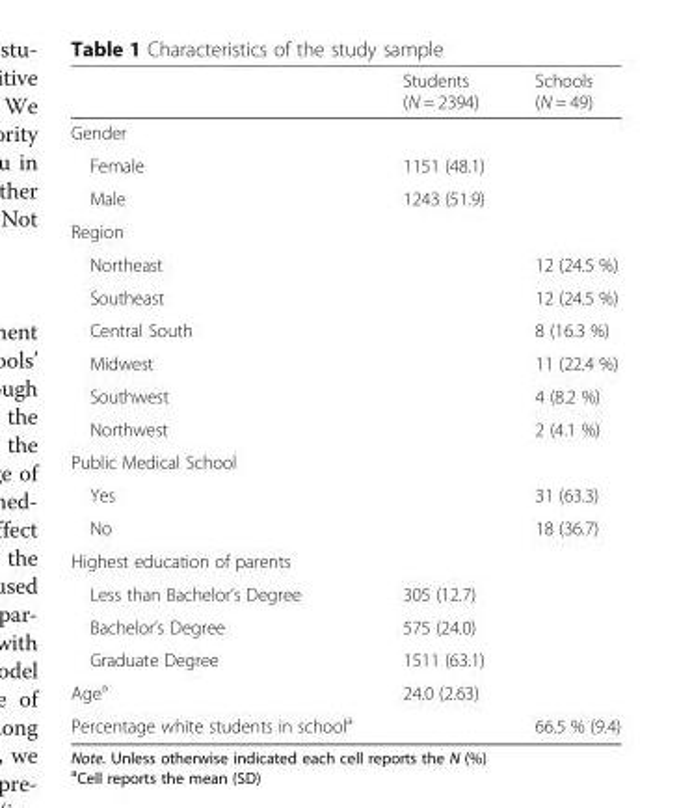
<table><thead><tr><td></td><td>Students (N = 2394)</td><td>Schools (N = 49)</td></tr></thead><tbody><tr><td colspan="3">Gender</td></tr><tr><td>Female</td><td>1151 (48.1)</td><td></td></tr><tr><td>Male</td><td>1243 (51.9)</td><td></td></tr><tr><td colspan="3">Region</td></tr><tr><td>Northeast</td><td></td><td>12 (24.5 %)</td></tr><tr><td>Southeast</td><td></td><td>12 (24.5 %)</td></tr><tr><td>Central South</td><td></td><td>8 (16.3 %)</td></tr><tr><td>Midwest</td><td></td><td>11 (22.4 %)</td></tr><tr><td>Southwest</td><td></td><td>4 (8.2 %)</td></tr><tr><td>Northwest</td><td></td><td>2 (4.1 %)</td></tr><tr><td colspan="3">Public Medical School</td></tr><tr><td>Yes</td><td></td><td>31 (63.3)</td></tr><tr><td>No</td><td></td><td>18 (36.7)</td></tr><tr><td colspan="3">Highest education of parents</td></tr><tr><td>Less than Bachelor’s Degree</td><td>305 (12.7)</td><td></td></tr><tr><td>Bachelor’s Degree</td><td>575 (24.0)</td><td></td></tr><tr><td>Graduate Degree</td><td>1511 (63.1)</td><td></td></tr><tr><td>Age<sup>a</sup></td><td>24.0 (2.63)</td><td></td></tr><tr><td>Percentage white students in school<sup>a</sup></td><td></td><td>66.5 % (9.4)</td></tr></tbody></table>